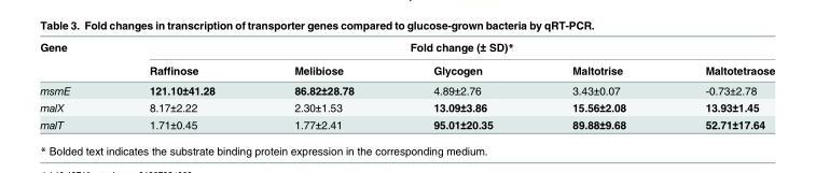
<table><thead><tr><td rowspan="2">Gene</td><td colspan="5">Fold change (± SD)*</td></tr><tr><td>Raffinose</td><td>Melibiose</td><td>Glycogen</td><td>Maltotrise</td><td>Maltotetraose</td></tr></thead><tbody><tr><td>msmE</td><td>121.10±41.28</td><td>86.82±28.78</td><td>4.89±2.76</td><td>3.43±0.07</td><td>-0.73±2.78</td></tr><tr><td>malX</td><td>8.17±2.22</td><td>2.30±1.53</td><td>13.09±3.86</td><td>15.56±2.08</td><td>13.93±1.45</td></tr><tr><td>malT</td><td>1.71±0.45</td><td>1.77±2.41</td><td>95.01±20.35</td><td>89.88±9.68</td><td>52.71±17.64</td></tr></tbody></table>